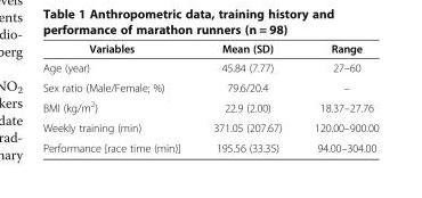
<table><thead><tr><td>Variables</td><td>Mean (SD)</td><td>Range</td></tr></thead><tbody><tr><td>Age (year)</td><td>45.84 (7.77)</td><td>27–60</td></tr><tr><td>Sex ratio (Male/Female; %)</td><td>79.6/20.4</td><td>–</td></tr><tr><td>BMI (kg/m<sup>2</sup>)</td><td>22.9 (2.00)</td><td>18.37–27.76</td></tr><tr><td>Weekly training (min)</td><td>371.05 (207.67)</td><td>120.00–900.00</td></tr><tr><td>Performance [race time (min)]</td><td>195.56 (33.35)</td><td>94.00–304.00</td></tr></tbody></table>